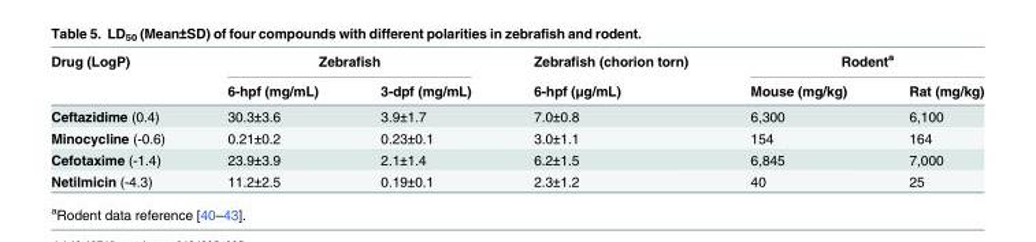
<table><thead><tr><td rowspan="2">Drug (LogP)</td><td colspan="2">Zebrafish</td><td rowspan="2">Zebrafish (chorion torn) 6-hpf (μg/mL)</td><td colspan="2">Rodent<sup>a</sup></td></tr><tr><td>6-hpf (mg/mL)</td><td>3-dpf (mg/mL)</td><td>Mouse (mg/kg)</td><td>Rat (mg/kg)</td></tr></thead><tbody><tr><td>Ceftazidime (0.4)</td><td>30.3±3.6</td><td>3.9±1.7</td><td>7.0±0.8</td><td>6,300</td><td>6,100</td></tr><tr><td>Minocycline (-0.6)</td><td>0.21±0.2</td><td>0.23±0.1</td><td>3.0±1.1</td><td>154</td><td>164</td></tr><tr><td>Cefotaxime (-1.4)</td><td>23.9±3.9</td><td>2.1±1.4</td><td>6.2±1.5</td><td>6,845</td><td>7,000</td></tr><tr><td>Netilmicin (-4.3)</td><td>11.2±2.5</td><td>0.19±0.1</td><td>2.3±1.2</td><td>40</td><td>25</td></tr></tbody></table>